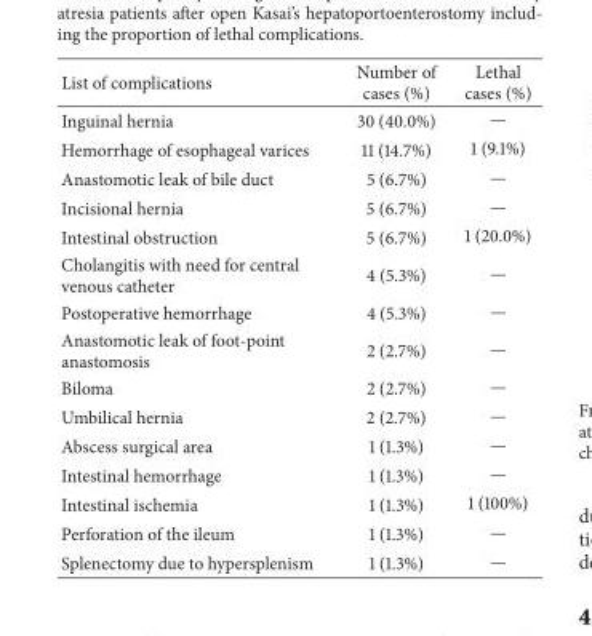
<table><thead><tr><td>List of complications</td><td>Number of cases (%)</td><td>Lethal cases (%)</td></tr></thead><tbody><tr><td>Inguinal hernia</td><td>30 (40.0%)</td><td>—</td></tr><tr><td>Hemorrhage of esophageal varices</td><td>11 (14.7%)</td><td>1 (9.1%)</td></tr><tr><td>Anastomotic leak of bile duct</td><td>5 (6.7%)</td><td>—</td></tr><tr><td>Incisional hernia</td><td>5 (6.7%)</td><td>—</td></tr><tr><td>Intestinal obstruction</td><td>5 (6.7%)</td><td>1 (20.0%)</td></tr><tr><td>Cholangitis with need for central venous catheter</td><td>4 (5.3%)</td><td>—</td></tr><tr><td>Postoperative hemorrhage</td><td>4 (5.3%)</td><td>—</td></tr><tr><td>Anastomotic leak of foot-point anastomosis</td><td>2 (2.7%)</td><td>—</td></tr><tr><td>Biloma</td><td>2 (2.7%)</td><td>—</td></tr><tr><td>Umbilical hernia</td><td>2 (2.7%)</td><td>—</td></tr><tr><td>Abscess surgical area</td><td>1 (1.3%)</td><td>—</td></tr><tr><td>Intestinal hemorrhage</td><td>1 (1.3%)</td><td>—</td></tr><tr><td>Intestinal ischemia</td><td>1 (1.3%)</td><td>1 (100%)</td></tr><tr><td>Perforation of the ileum</td><td>1 (1.3%)</td><td>—</td></tr><tr><td>Splenectomy due to hypersplenism</td><td>1 (1.3%)</td><td>—</td></tr></tbody></table>